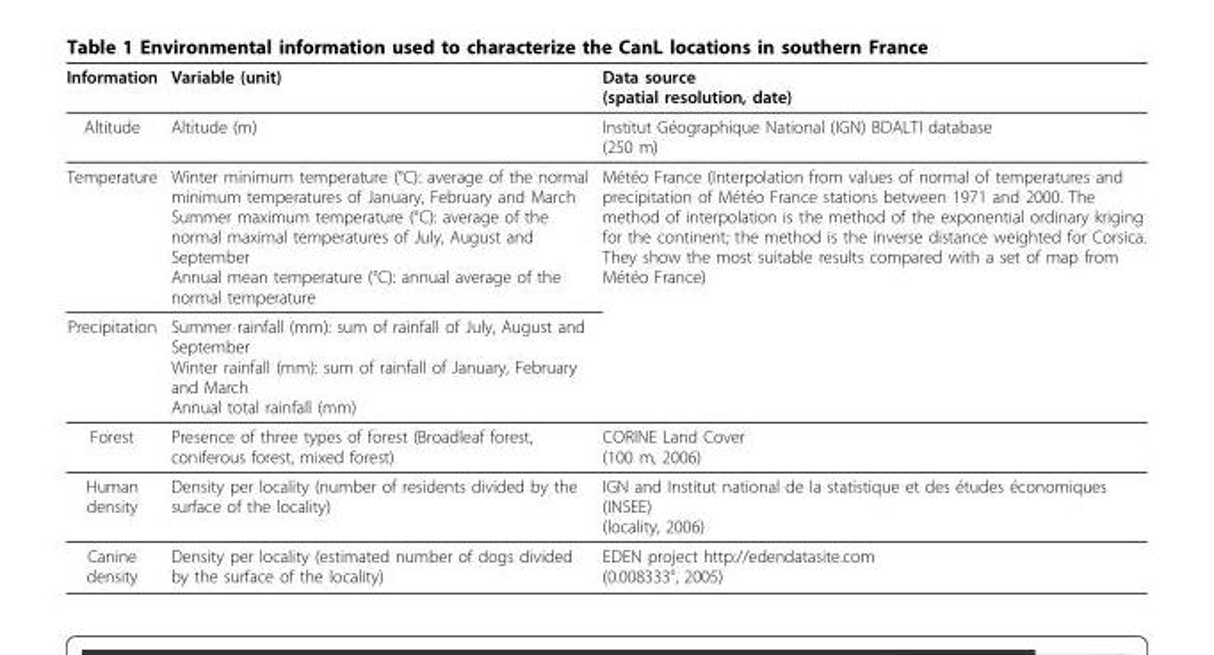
<table><thead><tr><td>Information</td><td>Variable (unit)</td><td>Data source (spatial resolution, date)</td></tr></thead><tbody><tr><td>Altitude</td><td>Altitude (m)</td><td>Institut Géographique National (IGN) BDALTI database (250 m)</td></tr><tr><td>Temperature</td><td>Winter minimum temperature (°C): average of the normal minimum temperatures of January, February and March Summer maximum temperature (°C): average of the normal maximal temperatures of July, August and September Annual mean temperature (°C): annual average of the normal temperature</td><td>Météo France (Interpolation from values of normal of temperatures and precipitation of Météo France stations between 1971 and 2000. The method of interpolation is the method of the exponential ordinary kriging for the continent; the method is the inverse distance weighted for Corsica. They show the most suitable results compared with a set of map from Météo France)</td></tr><tr><td>Precipitation</td><td>Summer rainfall (mm): sum of rainfall of July, August and September Winter rainfall (mm): sum of rainfall of January, February and March Annual total rainfall (mm)</td><td></td></tr><tr><td>Forest</td><td>Presence of three types of forest (Broadleaf forest, coniferous forest, mixed forest)</td><td>CORINE Land Cover (100 m, 2006)</td></tr><tr><td>Human density</td><td>Density per locality (number of residents divided by the surface of the locality)</td><td>IGN and Institut national de la statistique et des études économiques (INSEE) (locality, 2006)</td></tr><tr><td>Canine density</td><td>Density per locality (estimated number of dogs divided by the surface of the locality)</td><td>EDEN project http://edendatasite.com (0.008333°, 2005)</td></tr></tbody></table>